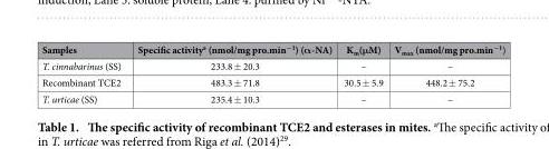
<table><thead><tr><td>Samples</td><td>Specific activity<sup>a</sup> (nmol/mg pro.min<sup>−1</sup>) (α-NA)</td><td>K<sub>m</sub>(μM)</td><td>V<sub>max</sub> (nmol/mg pro.min<sup>−1</sup>)</td></tr></thead><tbody><tr><td>T. cinnabarinus (SS)</td><td>233.8 ± 20.3</td><td>–</td><td>–</td></tr><tr><td>Recombinant TCE2</td><td>483.3 ± 71.8</td><td>30.5 ± 5.9</td><td>448.2 ± 75.2</td></tr><tr><td>T. urticae (SS)</td><td>235.4 ± 10.3</td><td>–</td><td>–</td></tr></tbody></table>